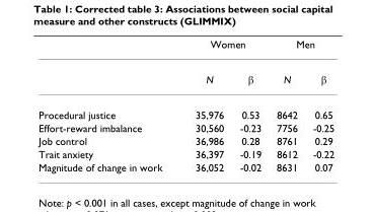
<table><thead><tr><td rowspan="2"></td><td colspan="2">Women</td><td colspan="2">Men</td></tr><tr><td>N</td><td>β</td><td>N</td><td>β</td></tr></thead><tbody><tr><td>Procedural justice</td><td>35,976</td><td>0.53</td><td>8642</td><td>0.65</td></tr><tr><td>Effort-reward imbalance</td><td>30,560</td><td>-0.23</td><td>7756</td><td>-0.25</td></tr><tr><td>Job control</td><td>36,986</td><td>0.28</td><td>8761</td><td>0.29</td></tr><tr><td>Trait anxiety</td><td>36,397</td><td>-0.19</td><td>8612</td><td>-0.22</td></tr><tr><td>Magnitude of change in work</td><td>36,052</td><td>-0.02</td><td>8631</td><td>0.07</td></tr></tbody></table>